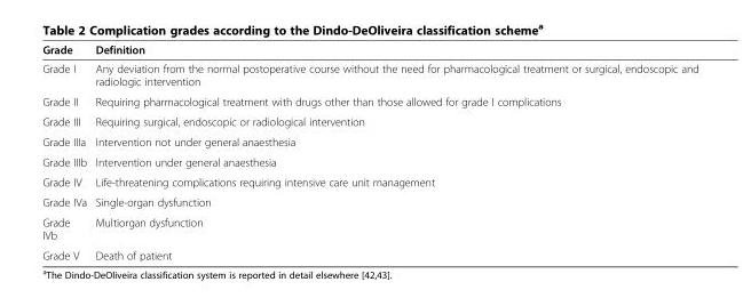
<table><thead><tr><td>Grade</td><td>Definition</td></tr></thead><tbody><tr><td>Grade I</td><td>Any deviation from the normal postoperative course without the need for pharmacological treatment or surgical, endoscopic and radiologic intervention</td></tr><tr><td>Grade II</td><td>Requiring pharmacological treatment with drugs other than those allowed for grade I complications</td></tr><tr><td>Grade III</td><td>Requiring surgical, endoscopic or radiological intervention</td></tr><tr><td>Grade IIIa</td><td>Intervention not under general anaesthesia</td></tr><tr><td>Grade IIIb</td><td>Intervention under general anaesthesia</td></tr><tr><td>Grade IV</td><td>Life-threatening complications requiring intensive care unit management</td></tr><tr><td>Grade IVa</td><td>Single-organ dysfunction</td></tr><tr><td>Grade IVb</td><td>Multiorgan dysfunction</td></tr><tr><td>Grade V</td><td>Death of patient</td></tr></tbody></table>